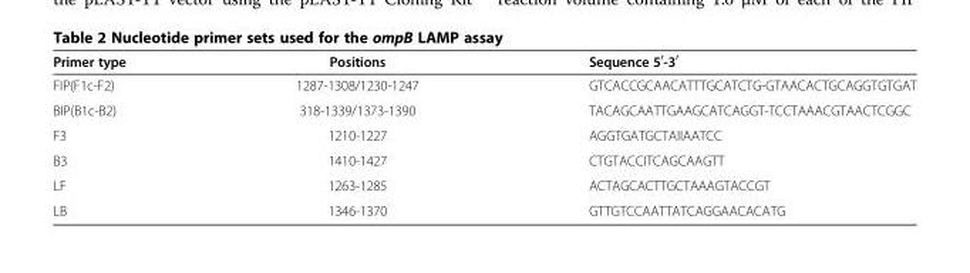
<table><thead><tr><td>Primer type</td><td>Positions</td><td>Sequence 5<sup>′</sup>-3<sup>′</sup></td></tr></thead><tbody><tr><td>FIP(F1c-F2)</td><td>1287-1308/1230-1247</td><td>GTCACCGCAACATTTGCATCTG-GTAACACTGCAGGTGTGAT</td></tr><tr><td>BIP(B1c-B2)</td><td>318-1339/1373-1390</td><td>TACAGCAATTGAAGCATCAGGT-TCCTAAACGTAACTCGGC</td></tr><tr><td>F3</td><td>1210-1227</td><td>AGGTGATGCTAIIAATCC</td></tr><tr><td>B3</td><td>1410-1427</td><td>CTGTACCITCAGCAAGTT</td></tr><tr><td>LF</td><td>1263-1285</td><td>ACTAGCACTTGCTAAAGTACCGT</td></tr><tr><td>LB</td><td>1346-1370</td><td>GTTGTCCAATTATCAGGAACACATG</td></tr></tbody></table>